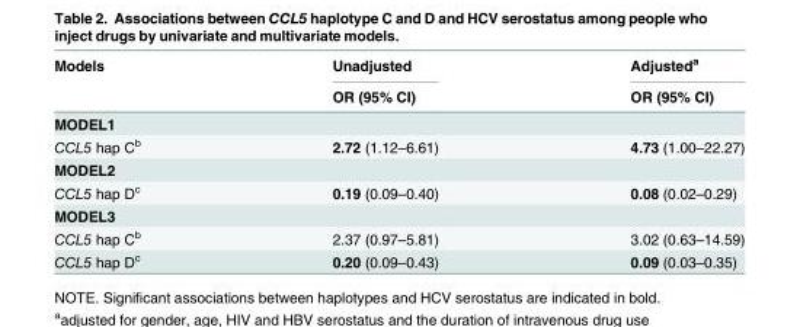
<table><thead><tr><td rowspan="2">Models</td><td rowspan="2">Unadjusted OR (95% CI)</td><td rowspan="2">Adjusted<sup>a</sup> OR (95% CI)</td></tr><tr></tr></thead><tbody><tr><td colspan="3">MODEL1</td></tr><tr><td>CCL5 hap C<sup>b</sup></td><td>2.72 (1.12–6.61)</td><td>4.73 (1.00–22.27)</td></tr><tr><td colspan="3">MODEL2</td></tr><tr><td>CCL5 hap D<sup>c</sup></td><td>0.19 (0.09–0.40)</td><td>0.08 (0.02–0.29)</td></tr><tr><td colspan="3">MODEL3</td></tr><tr><td>CCL5 hap C<sup>b</sup></td><td>2.37 (0.97–5.81)</td><td>3.02 (0.63–14.59)</td></tr><tr><td>CCL5 hap D<sup>c</sup></td><td>0.20 (0.09–0.43)</td><td>0.09 (0.03–0.35)</td></tr></tbody></table>